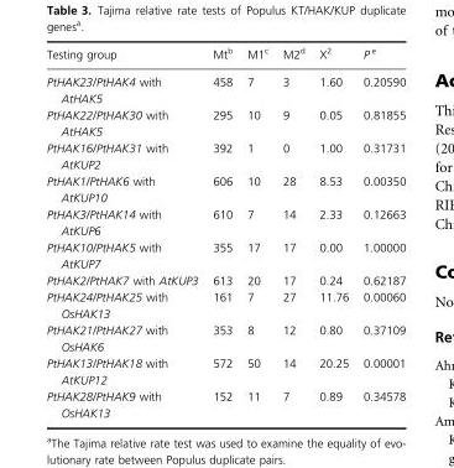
<table><thead><tr><td>Testing group</td><td>Mt<sup>b</sup></td><td>M1<sup>c</sup></td><td>M2<sup>d</sup></td><td>X<sup>2</sup></td><td>P <sup>e</sup></td></tr></thead><tbody><tr><td>PtHAK23/PtHAK4 with AtHAK5</td><td>458</td><td>7</td><td>3</td><td>1.60</td><td>0.20590</td></tr><tr><td>PtHAK22/PtHAK30 with AtHAK5</td><td>295</td><td>10</td><td>9</td><td>0.05</td><td>0.81855</td></tr><tr><td>PtHAK16/PtHAK31 with AtKUP2</td><td>392</td><td>1</td><td>0</td><td>1.00</td><td>0.31731</td></tr><tr><td>PtHAK1/PtHAK6 with AtKUP10</td><td>606</td><td>10</td><td>28</td><td>8.53</td><td>0.00350</td></tr><tr><td>PtHAK3/PtHAK14 with AtKUP6</td><td>610</td><td>7</td><td>14</td><td>2.33</td><td>0.12663</td></tr><tr><td>PtHAK10/PtHAK5 with AtKUP7</td><td>355</td><td>17</td><td>17</td><td>0.00</td><td>1.00000</td></tr><tr><td>PtHAK2/PtHAK7 with AtKUP3</td><td>613</td><td>20</td><td>17</td><td>0.24</td><td>0.62187</td></tr><tr><td>PtHAK24/PtHAK25 with OsHAK13</td><td>161</td><td>7</td><td>27</td><td>11.76</td><td>0.00060</td></tr><tr><td>PtHAK21/PtHAK27 with OsHAK6</td><td>353</td><td>8</td><td>12</td><td>0.80</td><td>0.37109</td></tr><tr><td>PtHAK13/PtHAK18 with AtKUP12</td><td>572</td><td>50</td><td>14</td><td>20.25</td><td>0.00001</td></tr><tr><td>PtHAK28/PtHAK9 with OsHAK13</td><td>152</td><td>11</td><td>7</td><td>0.89</td><td>0.34578</td></tr></tbody></table>